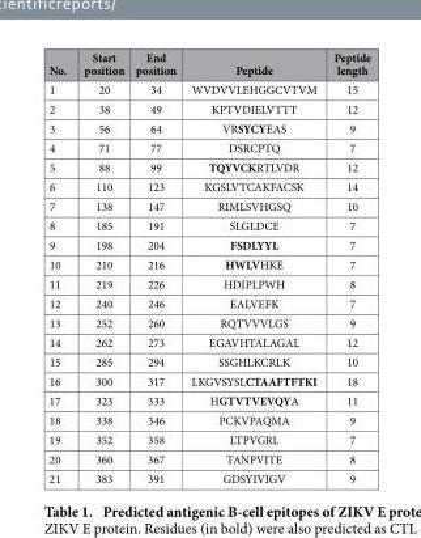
<table><thead><tr><td>No.</td><td>Start position</td><td>End position</td><td>Peptide</td><td>Peptide length</td></tr></thead><tbody><tr><td>1</td><td>20</td><td>34</td><td>WVDVVLEHGGCVTVM</td><td>15</td></tr><tr><td>2</td><td>38</td><td>49</td><td>KPTVDIELVTTT</td><td>12</td></tr><tr><td>3</td><td>56</td><td>64</td><td>VRSYCYEAS</td><td>9</td></tr><tr><td>4</td><td>71</td><td>77</td><td>DSRCPTQ</td><td>7</td></tr><tr><td>5</td><td>88</td><td>99</td><td>TQYVCKRTLVDR</td><td>12</td></tr><tr><td>6</td><td>110</td><td>123</td><td>KGSLVTCAKFACSK</td><td>14</td></tr><tr><td>7</td><td>138</td><td>147</td><td>RIMLSVHGSQ</td><td>10</td></tr><tr><td>8</td><td>185</td><td>191</td><td>SLGLDCE</td><td>7</td></tr><tr><td>9</td><td>198</td><td>204</td><td>FSDLYYL</td><td>7</td></tr><tr><td>10</td><td>210</td><td>216</td><td>HWLVHKE</td><td>7</td></tr><tr><td>11</td><td>219</td><td>226</td><td>HDIPLPWH</td><td>8</td></tr><tr><td>12</td><td>240</td><td>246</td><td>EALVEFK</td><td>7</td></tr><tr><td>13</td><td>252</td><td>260</td><td>RQTVVVLGS</td><td>9</td></tr><tr><td>14</td><td>262</td><td>273</td><td>EGAVHTALAGAL</td><td>12</td></tr><tr><td>15</td><td>285</td><td>294</td><td>SSGHLKCRLK</td><td>10</td></tr><tr><td>16</td><td>300</td><td>317</td><td>LKGVSYSLCTAAFTFTKI</td><td>18</td></tr><tr><td>17</td><td>323</td><td>333</td><td>HGTVTVEVQYA</td><td>11</td></tr><tr><td>18</td><td>338</td><td>346</td><td>PCKVPAQMA</td><td>9</td></tr><tr><td>19</td><td>352</td><td>358</td><td>LTPVGRL</td><td>7</td></tr><tr><td>20</td><td>360</td><td>367</td><td>TANPVITE</td><td>8</td></tr><tr><td>21</td><td>383</td><td>391</td><td>GDSYIVIGV</td><td>9</td></tr></tbody></table>